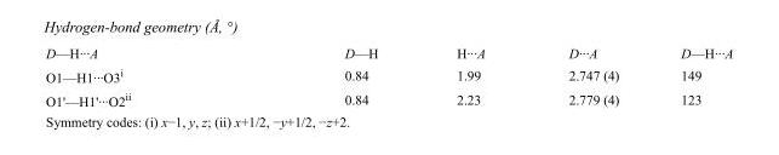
<table><tbody><tr><td>D—H···A</td><td>D—H</td><td>H···A</td><td>D···A</td><td>D—H···A</td></tr><tr><td>O1—H1···O3<sup>i</sup></td><td>0.84</td><td>1.99</td><td>2.747 (4)</td><td>149</td></tr><tr><td>O1&#x27;—H1&#x27;···O2<sup>ii</sup></td><td>0.84</td><td>2.23</td><td>2.779 (4)</td><td>123</td></tr></tbody></table>